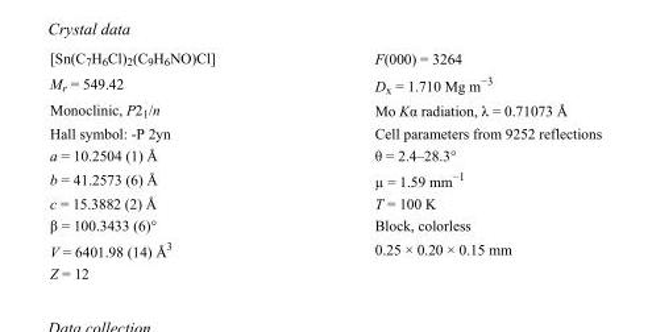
<table><tbody><tr><td>[Sn(C<sub>7</sub>H<sub>6</sub>Cl)<sub>2</sub>(C<sub>9</sub>H<sub>6</sub>NO)Cl]</td><td>F(000) = 3264</td></tr><tr><td>M<sub>r</sub> = 549.42</td><td>D<sub>x</sub> = 1.710 Mg m<sup>−3</sup></td></tr><tr><td>Monoclinic, P2<sub>1</sub>/n</td><td>Mo Kα radiation, λ = 0.71073 Å</td></tr><tr><td>Hall symbol: -P 2yn</td><td>Cell parameters from 9252 reflections</td></tr><tr><td>a = 10.2504 (1) Å</td><td>θ = 2.4–28.3°</td></tr><tr><td>b = 41.2573 (6) Å</td><td>µ = 1.59 mm<sup>−1</sup></td></tr><tr><td>c = 15.3882 (2) Å</td><td>T = 100 K</td></tr><tr><td>β = 100.3433 (6)°</td><td>Block, colorless</td></tr><tr><td>V = 6401.98 (14) Å<sup>3</sup></td><td>0.25 × 0.20 × 0.15 mm</td></tr><tr><td>Z = 12</td><td></td></tr></tbody></table>